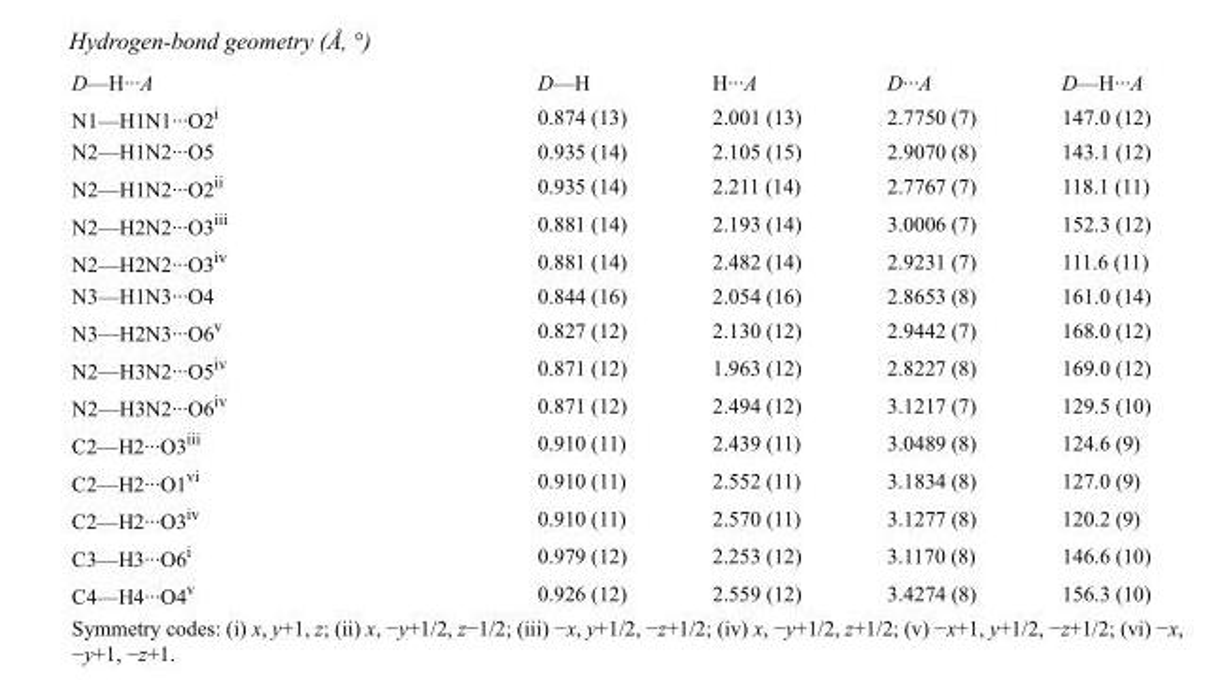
<table><tbody><tr><td>D—H···A</td><td>D—H</td><td>H···A</td><td>D···A</td><td>D—H···A</td></tr><tr><td>N1—H1N1···O2<sup>i</sup></td><td>0.874 (13)</td><td>2.001 (13)</td><td>2.7750 (7)</td><td>147.0 (12)</td></tr><tr><td>N2—H1N2···O5</td><td>0.935 (14)</td><td>2.105 (15)</td><td>2.9070 (8)</td><td>143.1 (12)</td></tr><tr><td>N2—H1N2···O2<sup>ii</sup></td><td>0.935 (14)</td><td>2.211 (14)</td><td>2.7767 (7)</td><td>118.1 (11)</td></tr><tr><td>N2—H2N2···O3<sup>iii</sup></td><td>0.881 (14)</td><td>2.193 (14)</td><td>3.0006 (7)</td><td>152.3 (12)</td></tr><tr><td>N2—H2N2···O3<sup>iv</sup></td><td>0.881 (14)</td><td>2.482 (14)</td><td>2.9231 (7)</td><td>111.6 (11)</td></tr><tr><td>N3—H1N3···O4</td><td>0.844 (16)</td><td>2.054 (16)</td><td>2.8653 (8)</td><td>161.0 (14)</td></tr><tr><td>N3—H2N3···O6<sup>v</sup></td><td>0.827 (12)</td><td>2.130 (12)</td><td>2.9442 (7)</td><td>168.0 (12)</td></tr><tr><td>N2—H3N2···O5<sup>iv</sup></td><td>0.871 (12)</td><td>1.963 (12)</td><td>2.8227 (8)</td><td>169.0 (12)</td></tr><tr><td>N2—H3N2···O6<sup>iv</sup></td><td>0.871 (12)</td><td>2.494 (12)</td><td>3.1217 (7)</td><td>129.5 (10)</td></tr><tr><td>C2—H2···O3<sup>iii</sup></td><td>0.910 (11)</td><td>2.439 (11)</td><td>3.0489 (8)</td><td>124.6 (9)</td></tr><tr><td>C2—H2···O1<sup>vi</sup></td><td>0.910 (11)</td><td>2.552 (11)</td><td>3.1834 (8)</td><td>127.0 (9)</td></tr><tr><td>C2—H2···O3<sup>iv</sup></td><td>0.910 (11)</td><td>2.570 (11)</td><td>3.1277 (8)</td><td>120.2 (9)</td></tr><tr><td>C3—H3···O6<sup>i</sup></td><td>0.979 (12)</td><td>2.253 (12)</td><td>3.1170 (8)</td><td>146.6 (10)</td></tr><tr><td>C4—H4···O4<sup>v</sup></td><td>0.926 (12)</td><td>2.559 (12)</td><td>3.4274 (8)</td><td>156.3 (10)</td></tr></tbody></table>